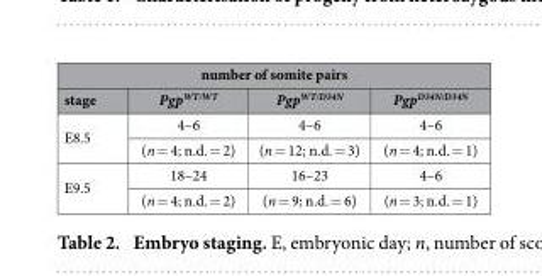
<table><thead><tr><td colspan="4">number of somite pairs</td></tr><tr><td>stage</td><td>Pgp<sup>WT/WT</sup></td><td>Pgp<sup>WT/D34N</sup></td><td>Pgp<sup>D34N/D34N</sup></td></tr></thead><tbody><tr><td rowspan="2">E8.5</td><td>4–6</td><td>4–6</td><td>4–6</td></tr><tr><td>(n = 4; n.d. = 2)</td><td>(n = 12; n.d. = 3)</td><td>(n = 4; n.d. = 1)</td></tr><tr><td rowspan="2">E9.5</td><td>18–24</td><td>16–23</td><td>4–6</td></tr><tr><td>(n = 4; n.d. = 2)</td><td>(n = 9; n.d. = 6)</td><td>(n = 3; n.d. = 1)</td></tr></tbody></table>